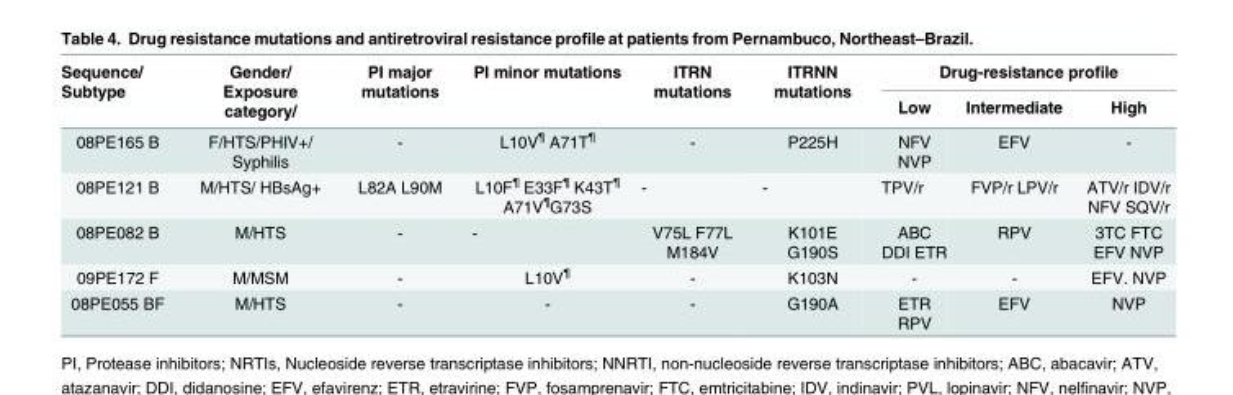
<table><thead><tr><td rowspan="2">Sequence/ Subtype</td><td rowspan="2">Gender/ Exposure category/</td><td rowspan="2">PI major mutations</td><td rowspan="2">PI minor mutations</td><td rowspan="2">ITRN mutations</td><td rowspan="2">ITRNN mutations</td><td colspan="3">Drug-resistance profile</td></tr><tr><td>Low</td><td>Intermediate</td><td>High</td></tr></thead><tbody><tr><td>08PE165 B</td><td>F/HTS/PHIV+/ Syphilis</td><td>-</td><td>L10V<sup>¶</sup> A71T<sup>¶</sup></td><td>-</td><td>P225H</td><td>NFV NVP</td><td>EFV</td><td>-</td></tr><tr><td>08PE121 B</td><td>M/HTS/ HBsAg+</td><td>L82A L90M</td><td>L10F<sup>¶</sup> E33F<sup>¶</sup> K43T<sup>¶</sup> A71V<sup>¶</sup>G73S</td><td>-</td><td>-</td><td>TPV/r</td><td>FVP/r LPV/r</td><td>ATV/r IDV/r NFV SQV/r</td></tr><tr><td>08PE082 B</td><td>M/HTS</td><td>-</td><td>-</td><td>V75L F77L M184V</td><td>K101E G190S</td><td>ABC DDI ETR</td><td>RPV</td><td>3TC FTC EFV NVP</td></tr><tr><td>09PE172 F</td><td>M/MSM</td><td>-</td><td>L10V<sup>¶</sup></td><td>-</td><td>K103N</td><td>-</td><td>-</td><td>EFV. NVP</td></tr><tr><td>08PE055 BF</td><td>M/HTS</td><td>-</td><td>-</td><td>-</td><td>G190A</td><td>ETR RPV</td><td>EFV</td><td>NVP</td></tr></tbody></table>